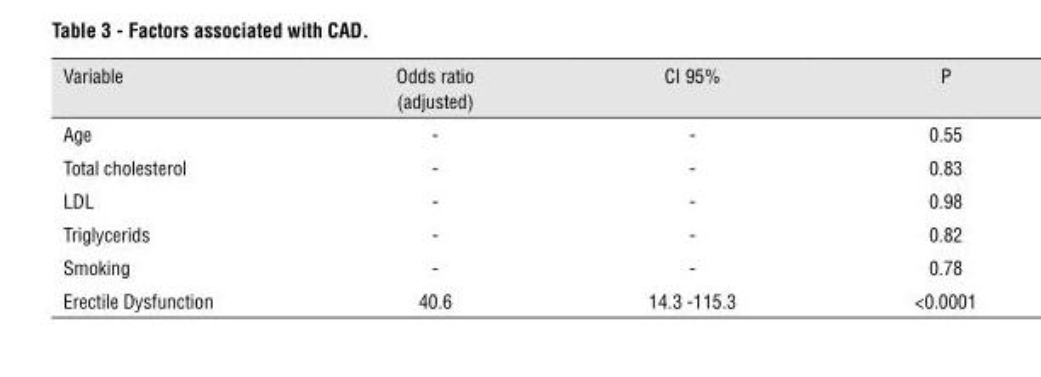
<table><thead><tr><td>Variable</td><td>Odds ratio (adjusted)</td><td>CI 95%</td><td>P</td></tr></thead><tbody><tr><td>Age</td><td>-</td><td>-</td><td>0.55</td></tr><tr><td>Total cholesterol</td><td>-</td><td>-</td><td>0.83</td></tr><tr><td>LDL</td><td>-</td><td>-</td><td>0.98</td></tr><tr><td>Triglycerids</td><td>-</td><td>-</td><td>0.82</td></tr><tr><td>Smoking</td><td>-</td><td>-</td><td>0.78</td></tr><tr><td>Erectile Dysfunction</td><td>40.6</td><td>14.3 -115.3</td><td>&lt;0.0001</td></tr></tbody></table>